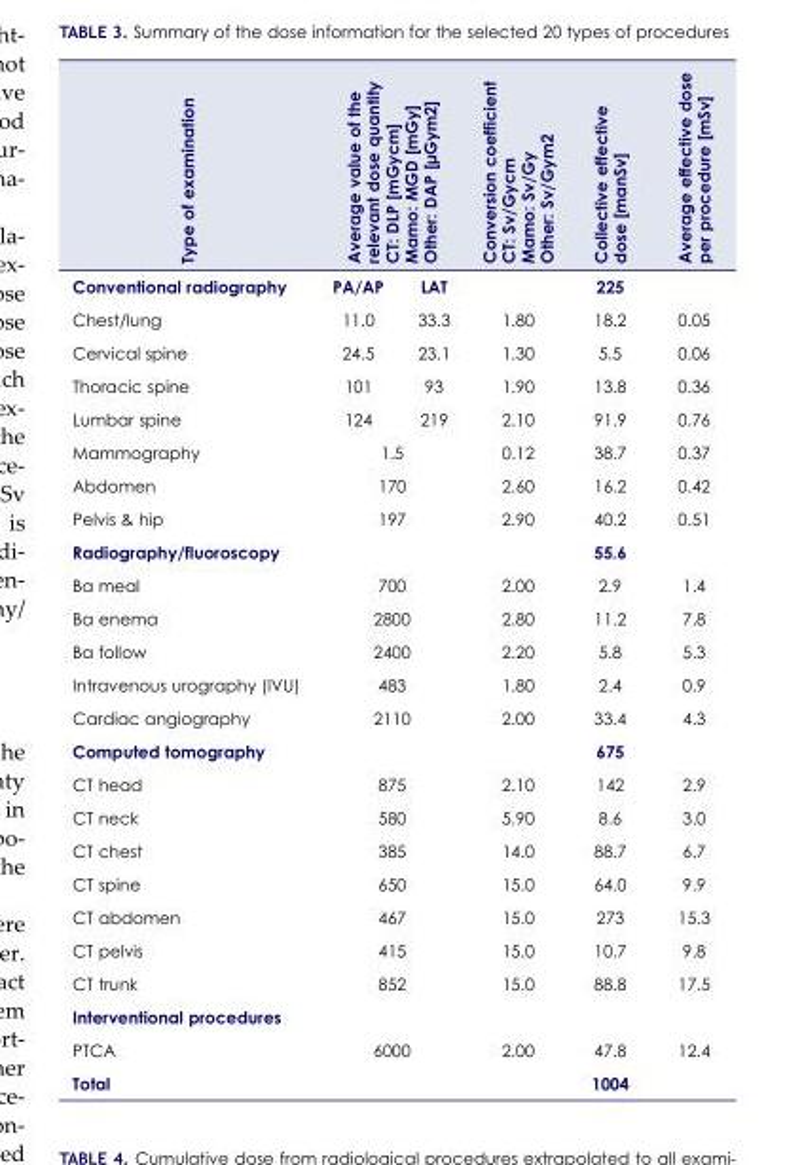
<table><thead><tr><td rowspan="2">Type of examination Conventional radiography</td><td colspan="2">Average value of the relevant dose quantity CT: DLP [mGycm] Mamo: MGD [mGy] Other: DAP [μGym2]</td><td rowspan="2">Conversion coefficient CT: Sv/Gycm Mamo: Sv/Gy Other: Sv/Gym2</td><td rowspan="2">Collective effective dose [manSv] 225</td><td rowspan="2">Average effective dose per procedure [mSv]</td></tr><tr><td>PA/AP</td><td>LAT</td></tr></thead><tbody><tr><td>Chest/lung</td><td>11.0</td><td>33.3</td><td>1.80</td><td>18.2</td><td>0.05</td></tr><tr><td>Cervical spine</td><td>24.5</td><td>23.1</td><td>1.30</td><td>5.5</td><td>0.06</td></tr><tr><td>Thoracic spine</td><td>101</td><td>93</td><td>1.90</td><td>13.8</td><td>0.36</td></tr><tr><td>Lumbar spine</td><td>124</td><td>219</td><td>2.10</td><td>91.9</td><td>0.76</td></tr><tr><td>Mammography</td><td colspan="2">1.5</td><td>0.12</td><td>38.7</td><td>0.37</td></tr><tr><td>Abdomen</td><td colspan="2">170</td><td>2.60</td><td>16.2</td><td>0.42</td></tr><tr><td>Pelvis &amp; hip</td><td colspan="2">197</td><td>2.90</td><td>40.2</td><td>0.51</td></tr><tr><td>Radiography/fluoroscopy</td><td colspan="2"></td><td></td><td>55.6</td><td></td></tr><tr><td>Ba meal</td><td colspan="2">700</td><td>2.00</td><td>2.9</td><td>1.4</td></tr><tr><td>Ba enema</td><td colspan="2">2800</td><td>2.80</td><td>11.2</td><td>7.8</td></tr><tr><td>Ba follow</td><td colspan="2">2400</td><td>2.20</td><td>5.8</td><td>5.3</td></tr><tr><td>Intravenous urography (IVU)</td><td colspan="2">483</td><td>1.80</td><td>2.4</td><td>0.9</td></tr><tr><td>Cardiac angiography</td><td colspan="2">2110</td><td>2.00</td><td>33.4</td><td>4.3</td></tr><tr><td>Computed tomography</td><td colspan="2"></td><td></td><td>675</td><td></td></tr><tr><td>CT head</td><td colspan="2">875</td><td>2.10</td><td>142</td><td>2.9</td></tr><tr><td>CT neck</td><td colspan="2">580</td><td>5.90</td><td>8.6</td><td>3.0</td></tr><tr><td>CT chest</td><td colspan="2">385</td><td>14.0</td><td>88.7</td><td>6.7</td></tr><tr><td>CT spine</td><td colspan="2">650</td><td>15.0</td><td>64.0</td><td>9.9</td></tr><tr><td>CT abdomen</td><td colspan="2">467</td><td>15.0</td><td>273</td><td>15.3</td></tr><tr><td>CT pelvis</td><td colspan="2">415</td><td>15.0</td><td>10.7</td><td>9.8</td></tr><tr><td>CT trunk</td><td colspan="2">852</td><td>15.0</td><td>88.8</td><td>17.5</td></tr><tr><td colspan="6">Interventional procedures</td></tr><tr><td>PTCA</td><td colspan="2">6000</td><td>2.00</td><td>47.8</td><td>12.4</td></tr><tr><td>Total</td><td colspan="2"></td><td></td><td>1004</td><td></td></tr></tbody></table>